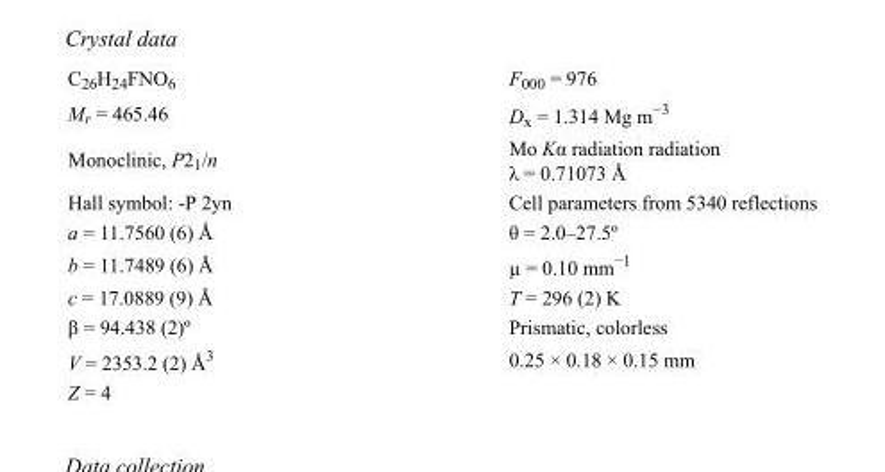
<table><tbody><tr><td>C<sub>26</sub>H<sub>24</sub>FNO<sub>6</sub></td><td>F<sub>000</sub> = 976</td></tr><tr><td>M<sub>r</sub> = 465.46</td><td>D<sub>x</sub> = 1.314 Mg m<sup>−3</sup></td></tr><tr><td>Monoclinic, P2<sub>1</sub>/n</td><td>Mo Kα radiation radiation λ = 0.71073 Å</td></tr><tr><td>Hall symbol: -P 2yn</td><td>Cell parameters from 5340 reflections</td></tr><tr><td>a = 11.7560 (6) Å</td><td>θ = 2.0–27.5º</td></tr><tr><td>b = 11.7489 (6) Å</td><td>µ = 0.10 mm<sup>−1</sup></td></tr><tr><td>c = 17.0889 (9) Å</td><td>T = 296 (2) K</td></tr><tr><td>β = 94.438 (2)º</td><td>Prismatic, colorless</td></tr><tr><td>V = 2353.2 (2) Å<sup>3</sup></td><td>0.25 × 0.18 × 0.15 mm</td></tr><tr><td>Z = 4</td><td></td></tr></tbody></table>